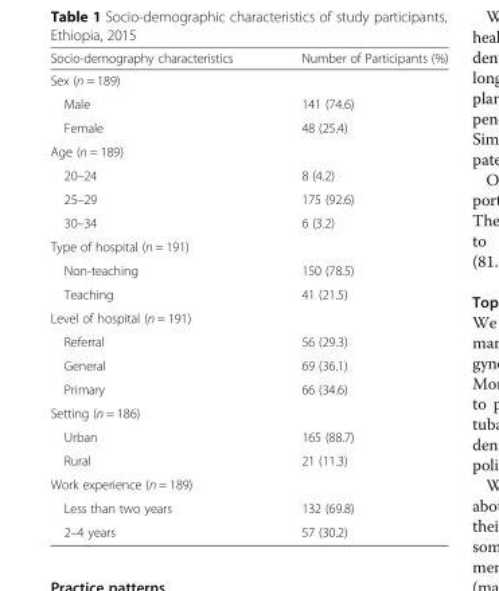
<table><thead><tr><td>Socio-demography characteristics</td><td>Number of Participants (%)</td></tr></thead><tbody><tr><td colspan="2">Sex (n = 189)</td></tr><tr><td>Male</td><td>141 (74.6)</td></tr><tr><td>Female</td><td>48 (25.4)</td></tr><tr><td colspan="2">Age (n = 189)</td></tr><tr><td>20–24</td><td>8 (4.2)</td></tr><tr><td>25–29</td><td>175 (92.6)</td></tr><tr><td>30–34</td><td>6 (3.2)</td></tr><tr><td colspan="2">Type of hospital (n = 191)</td></tr><tr><td>Non-teaching</td><td>150 (78.5)</td></tr><tr><td>Teaching</td><td>41 (21.5)</td></tr><tr><td colspan="2">Level of hospital (n = 191)</td></tr><tr><td>Referral</td><td>56 (29.3)</td></tr><tr><td>General</td><td>69 (36.1)</td></tr><tr><td>Primary</td><td>66 (34.6)</td></tr><tr><td colspan="2">Setting (n = 186)</td></tr><tr><td>Urban</td><td>165 (88.7)</td></tr><tr><td>Rural</td><td>21 (11.3)</td></tr><tr><td colspan="2">Work experience (n = 189)</td></tr><tr><td>Less than two years</td><td>132 (69.8)</td></tr><tr><td>2–4 years</td><td>57 (30.2)</td></tr></tbody></table>